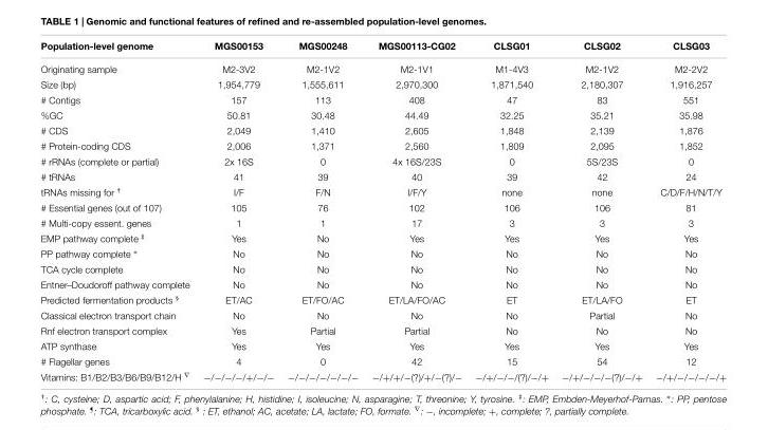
<table><thead><tr><td>Population-level genome</td><td>MGS00153</td><td>MGS00248</td><td>MGS00113-CG02</td><td>CLSG01</td><td>CLSG02</td><td>CLSG03</td></tr></thead><tbody><tr><td>Originating sample</td><td>M2-3V2</td><td>M2-1V2</td><td>M2-1V1</td><td>M1-4V3</td><td>M2-1V2</td><td>M2-2V2</td></tr><tr><td>Size (bp)</td><td>1,954,779</td><td>1,555,611</td><td>2,970,300</td><td>1,871,540</td><td>2,180,307</td><td>1,916,257</td></tr><tr><td># Contigs</td><td>157</td><td>113</td><td>408</td><td>47</td><td>83</td><td>551</td></tr><tr><td>%GC</td><td>50.81</td><td>30.48</td><td>44.49</td><td>32.25</td><td>35.21</td><td>35.98</td></tr><tr><td># CDS</td><td>2,049</td><td>1,410</td><td>2,605</td><td>1,848</td><td>2,139</td><td>1,876</td></tr><tr><td># Protein-coding CDS</td><td>2,006</td><td>1,371</td><td>2,560</td><td>1,809</td><td>2,095</td><td>1,852</td></tr><tr><td># rRNAs (complete or partial)</td><td>2x 16S</td><td>0</td><td>4x 16S/23S</td><td>0</td><td>5S/23S</td><td>0</td></tr><tr><td># tRNAs</td><td>41</td><td>39</td><td>40</td><td>39</td><td>42</td><td>24</td></tr><tr><td>tRNAs missing for <sup>†</sup></td><td>I/F</td><td>F/N</td><td>I/F/Y</td><td>none</td><td>none</td><td>C/D/F/H/N/T/Y</td></tr><tr><td># Essential genes (out of 107)</td><td>105</td><td>76</td><td>102</td><td>106</td><td>106</td><td>81</td></tr><tr><td># Multi-copy essent. genes</td><td>1</td><td>1</td><td>17</td><td>3</td><td>3</td><td>3</td></tr><tr><td>EMP pathway complete <sup>‡</sup></td><td>Yes</td><td>No</td><td>Yes</td><td>Yes</td><td>Yes</td><td>Yes</td></tr><tr><td>PP pathway complete ∗</td><td>No</td><td>No</td><td>No</td><td>No</td><td>No</td><td>No</td></tr><tr><td>TCA cycle complete</td><td>No</td><td>No</td><td>No</td><td>No</td><td>No</td><td>No</td></tr><tr><td>Entner–Doudoroff pathway complete</td><td>No</td><td>No</td><td>No</td><td>No</td><td>No</td><td>No</td></tr><tr><td>Predicted fermentation products <sup>§</sup></td><td>ET/AC</td><td>ET/FO/AC</td><td>ET/LA/FO/AC</td><td>ET</td><td>ET/LA/FO</td><td>ET</td></tr><tr><td>Classical electron transport chain</td><td>No</td><td>No</td><td>No</td><td>No</td><td>Partial</td><td>No</td></tr><tr><td>Rnf electron transport complex</td><td>Yes</td><td>Partial</td><td>Partial</td><td>No</td><td>No</td><td>No</td></tr><tr><td>ATP synthase</td><td>Yes</td><td>Yes</td><td>Yes</td><td>Yes</td><td>Yes</td><td>Yes</td></tr><tr><td># Flagellar genes</td><td>4</td><td>0</td><td>42</td><td>15</td><td>54</td><td>12</td></tr><tr><td>Vitamins: B1/B2/B3/B6/B9/B12/H <sup>∇</sup></td><td>−/−/−/−/+/−/−</td><td>−/−/−/−/−/−/−</td><td>−/+/+/−(?)/+/−(?)/−</td><td>−/+/−/−/(?)/−/+</td><td>−/+/−/−/−(?)/−/+</td><td>−/+/−/−/−/−/+</td></tr></tbody></table>